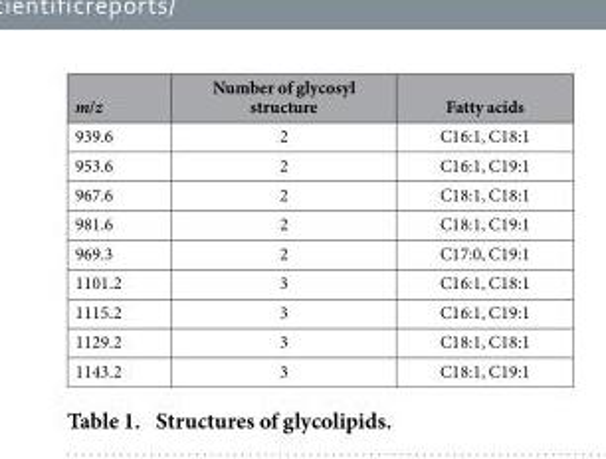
<table><thead><tr><td>m/z</td><td>Number of glycosyl structure</td><td>Fatty acids</td></tr></thead><tbody><tr><td>939.6</td><td>2</td><td>C16:1, C18:1</td></tr><tr><td>953.6</td><td>2</td><td>C16:1, C19:1</td></tr><tr><td>967.6</td><td>2</td><td>C18:1, C18:1</td></tr><tr><td>981.6</td><td>2</td><td>C18:1, C19:1</td></tr><tr><td>969.3</td><td>2</td><td>C17:0, C19:1</td></tr><tr><td>1101.2</td><td>3</td><td>C16:1, C18:1</td></tr><tr><td>1115.2</td><td>3</td><td>C16:1, C19:1</td></tr><tr><td>1129.2</td><td>3</td><td>C18:1, C18:1</td></tr><tr><td>1143.2</td><td>3</td><td>C18:1, C19:1</td></tr></tbody></table>